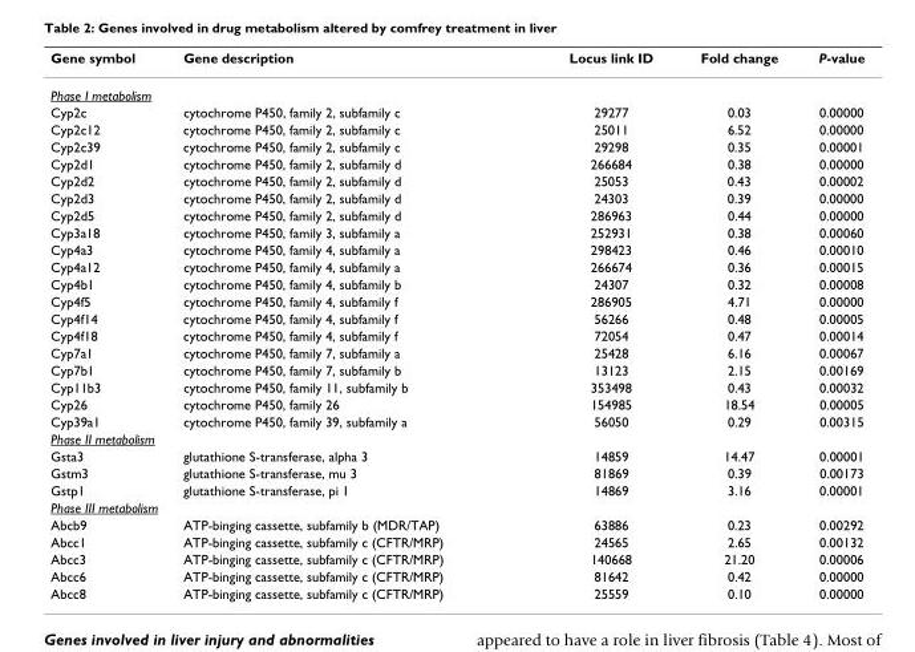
<table><thead><tr><td>Gene symbol</td><td>Gene description</td><td>Locus link ID</td><td>Fold change</td><td>P-value</td></tr></thead><tbody><tr><td colspan="5">Phase I metabolism</td></tr><tr><td>Cyp2c</td><td>cytochrome P450, family 2, subfamily c</td><td>29277</td><td>0.03</td><td>0.00000</td></tr><tr><td>Cyp2c12</td><td>cytochrome P450, family 2, subfamily c</td><td>25011</td><td>6.52</td><td>0.00000</td></tr><tr><td>Cyp2c39</td><td>cytochrome P450, family 2, subfamily c</td><td>29298</td><td>0.35</td><td>0.00001</td></tr><tr><td>Cyp2d1</td><td>cytochrome P450, family 2, subfamily d</td><td>266684</td><td>0.38</td><td>0.00000</td></tr><tr><td>Cyp2d2</td><td>cytochrome P450, family 2, subfamily d</td><td>25053</td><td>0.43</td><td>0.00002</td></tr><tr><td>Cyp2d3</td><td>cytochrome P450, family 2, subfamily d</td><td>24303</td><td>0.39</td><td>0.00000</td></tr><tr><td>Cyp2d5</td><td>cytochrome P450, family 2, subfamily d</td><td>286963</td><td>0.44</td><td>0.00000</td></tr><tr><td>Cyp3a18</td><td>cytochrome P450, family 3, subfamily a</td><td>252931</td><td>0.38</td><td>0.00060</td></tr><tr><td>Cyp4a3</td><td>cytochrome P450, family 4, subfamily a</td><td>298423</td><td>0.46</td><td>0.00010</td></tr><tr><td>Cyp4a12</td><td>cytochrome P450, family 4, subfamily a</td><td>266674</td><td>0.36</td><td>0.00015</td></tr><tr><td>Cyp4b1</td><td>cytochrome P450, family 4, subfamily b</td><td>24307</td><td>0.32</td><td>0.00008</td></tr><tr><td>Cyp4f5</td><td>cytochrome P450, family 4, subfamily f</td><td>286905</td><td>4.71</td><td>0.00000</td></tr><tr><td>Cyp4f14</td><td>cytochrome P450, family 4, subfamily f</td><td>56266</td><td>0.48</td><td>0.00005</td></tr><tr><td>Cyp4f18</td><td>cytochrome P450, family 4, subfamily f</td><td>72054</td><td>0.47</td><td>0.00014</td></tr><tr><td>Cyp7a1</td><td>cytochrome P450, family 7, subfamily a</td><td>25428</td><td>6.16</td><td>0.00067</td></tr><tr><td>Cyp7b1</td><td>cytochrome P450, family 7, subfamily b</td><td>13123</td><td>2.15</td><td>0.00169</td></tr><tr><td>Cyp11b3</td><td>cytochrome P450, family 11, subfamily b</td><td>353498</td><td>0.43</td><td>0.00032</td></tr><tr><td>Cyp26</td><td>cytochrome P450, family 26</td><td>154985</td><td>18.54</td><td>0.00005</td></tr><tr><td>Cyp39a1</td><td>cytochrome P450, family 39, subfamily a</td><td>56050</td><td>0.29</td><td>0.00315</td></tr><tr><td colspan="5">Phase II metabolism</td></tr><tr><td>Gsta3</td><td>glutathione S-transferase, alpha 3</td><td>14859</td><td>14.47</td><td>0.00001</td></tr><tr><td>Gstm3</td><td>glutathione S-transferase, mu 3</td><td>81869</td><td>0.39</td><td>0.00173</td></tr><tr><td>Gstp1</td><td>glutathione S-transferase, pi 1</td><td>14869</td><td>3.16</td><td>0.00001</td></tr><tr><td colspan="5">Phase III metabolism</td></tr><tr><td>Abcb9</td><td>ATP-binging cassette, subfamily b (MDR/TAP)</td><td>63886</td><td>0.23</td><td>0.00292</td></tr><tr><td>Abcc1</td><td>ATP-binging cassette, subfamily c (CFTR/MRP)</td><td>24565</td><td>2.65</td><td>0.00132</td></tr><tr><td>Abcc3</td><td>ATP-binging cassette, subfamily c (CFTR/MRP)</td><td>140668</td><td>21.20</td><td>0.00006</td></tr><tr><td>Abcc6</td><td>ATP-binging cassette, subfamily c (CFTR/MRP)</td><td>81642</td><td>0.42</td><td>0.00000</td></tr><tr><td>Abcc8</td><td>ATP-binging cassette, subfamily c (CFTR/MRP)</td><td>25559</td><td>0.10</td><td>0.00000</td></tr></tbody></table>